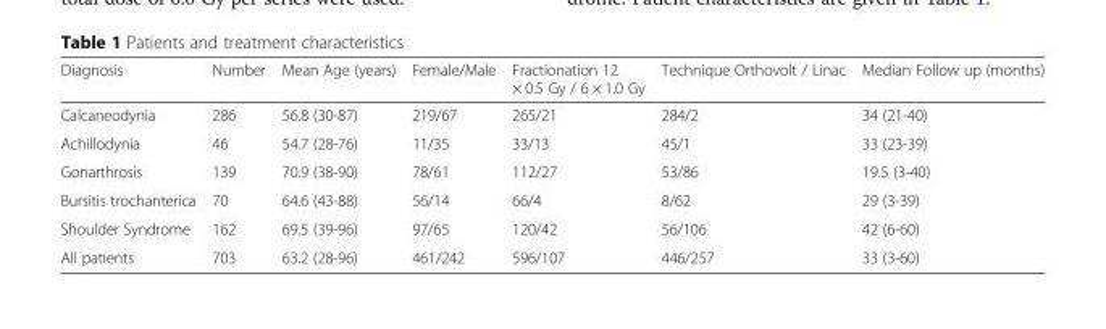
<table><thead><tr><td>Diagnosis</td><td>Number</td><td>Mean Age (years)</td><td>Female/Male</td><td>Fractionation 12 × 0.5 Gy / 6 × 1.0 Gy</td><td>Technique Orthovolt / Linac</td><td>Median Follow up (months)</td></tr></thead><tbody><tr><td>Calcaneodynia</td><td>286</td><td>56.8 (30-87)</td><td>219/67</td><td>265/21</td><td>284/2</td><td>34 (21-40)</td></tr><tr><td>Achillodynia</td><td>46</td><td>54.7 (28-76)</td><td>11/35</td><td>33/13</td><td>45/1</td><td>33 (23-39)</td></tr><tr><td>Gonarthrosis</td><td>139</td><td>70.9 (38-90)</td><td>78/61</td><td>112/27</td><td>53/86</td><td>19.5 (3-40)</td></tr><tr><td>Bursitis trochanterica</td><td>70</td><td>64.6 (43-88)</td><td>56/14</td><td>66/4</td><td>8/62</td><td>29 (3-39)</td></tr><tr><td>Shoulder Syndrome</td><td>162</td><td>69.5 (39-96)</td><td>97/65</td><td>120/42</td><td>56/106</td><td>42 (6-60)</td></tr><tr><td>All patients</td><td>703</td><td>63.2 (28-96)</td><td>461/242</td><td>596/107</td><td>446/257</td><td>33 (3-60)</td></tr></tbody></table>